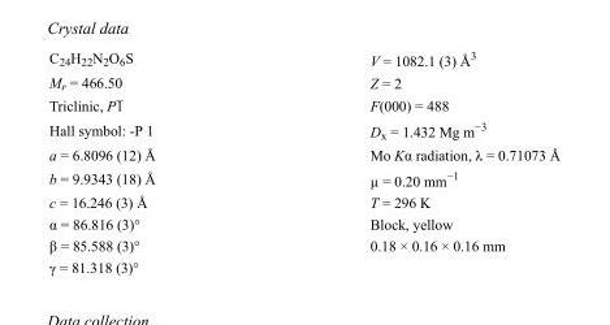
<table><tbody><tr><td>C<sub>24</sub>H<sub>22</sub>N<sub>2</sub>O<sub>6</sub>S</td><td>V = 1082.1 (3) Å<sup>3</sup></td></tr><tr><td>M<sub>r</sub> = 466.50</td><td>Z = 2</td></tr><tr><td>Triclinic, P1</td><td>F(000) = 488</td></tr><tr><td>Hall symbol: -P 1</td><td>D<sub>x</sub> = 1.432 Mg m<sup>−3</sup></td></tr><tr><td>a = 6.8096 (12) Å</td><td>Mo Kα radiation, λ = 0.71073 Å</td></tr><tr><td>b = 9.9343 (18) Å</td><td>µ = 0.20 mm<sup>−1</sup></td></tr><tr><td>c = 16.246 (3) Å</td><td>T = 296 K</td></tr><tr><td>α = 86.816 (3)°</td><td>Block, yellow</td></tr><tr><td>β = 85.588 (3)°</td><td>0.18 × 0.16 × 0.16 mm</td></tr><tr><td>γ = 81.318 (3)°</td><td></td></tr></tbody></table>